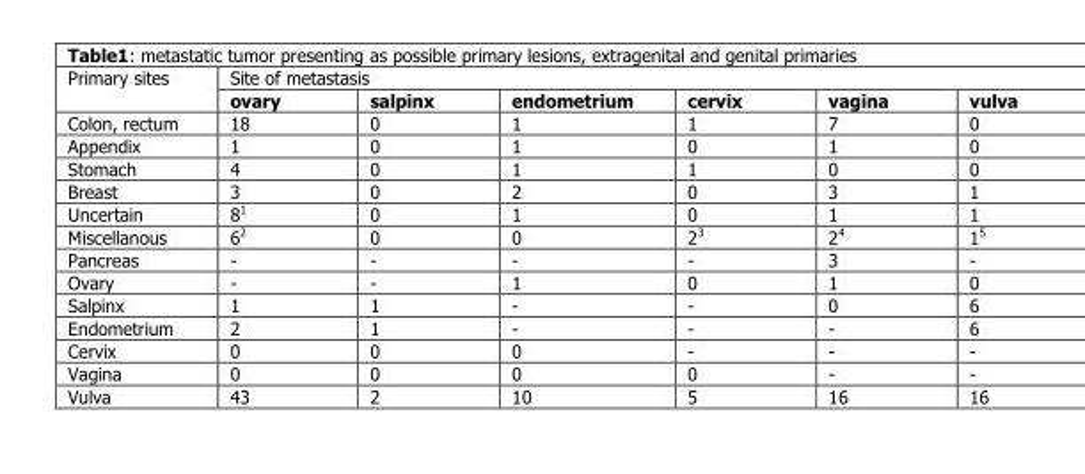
<table><thead><tr><td rowspan="2">Primary sites</td><td colspan="6">Site of metastasis</td></tr><tr><td>ovary</td><td>salpinx</td><td>endometrium</td><td>cervix</td><td>vagina</td><td>vulva</td></tr></thead><tbody><tr><td>Colon, rectum</td><td>18</td><td>0</td><td>1</td><td>1</td><td>7</td><td>0</td></tr><tr><td>Appendix</td><td>1</td><td>0</td><td>1</td><td>0</td><td>1</td><td>0</td></tr><tr><td>Stomach</td><td>4</td><td>0</td><td>1</td><td>1</td><td>0</td><td>0</td></tr><tr><td>Breast</td><td>3</td><td>0</td><td>2</td><td>0</td><td>3</td><td>1</td></tr><tr><td>Uncertain</td><td>8<sup>1</sup></td><td>0</td><td>1</td><td>0</td><td>1</td><td>1</td></tr><tr><td>Miscellanous</td><td>6<sup>2</sup></td><td>0</td><td>0</td><td>2<sup>3</sup></td><td>2<sup>4</sup></td><td>1<sup>5</sup></td></tr><tr><td>Pancreas</td><td>-</td><td>-</td><td>-</td><td>-</td><td>3</td><td>-</td></tr><tr><td>Ovary</td><td>-</td><td>-</td><td>1</td><td>0</td><td>1</td><td>0</td></tr><tr><td>Salpinx</td><td>1</td><td>1</td><td>-</td><td>-</td><td>0</td><td>6</td></tr><tr><td>Endometrium</td><td>2</td><td>1</td><td>-</td><td>-</td><td>-</td><td>6</td></tr><tr><td>Cervix</td><td>0</td><td>0</td><td>0</td><td>-</td><td>-</td><td>-</td></tr><tr><td>Vagina</td><td>0</td><td>0</td><td>0</td><td>0</td><td>-</td><td>-</td></tr><tr><td>Vulva</td><td>43</td><td>2</td><td>10</td><td>5</td><td>16</td><td>16</td></tr></tbody></table>